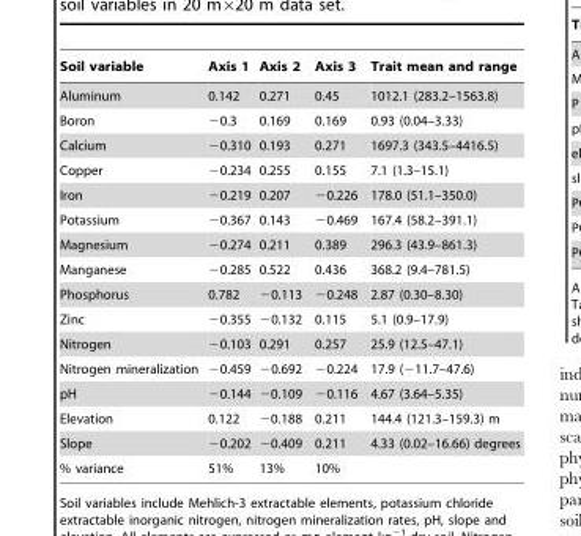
<table><thead><tr><td>Soil variable</td><td>Axis 1</td><td>Axis 2</td><td>Axis 3</td><td>Trait mean and range</td></tr></thead><tbody><tr><td>Aluminum</td><td>0.142</td><td>0.271</td><td>0.45</td><td>1012.1 (283.2–1563.8)</td></tr><tr><td>Boron</td><td>−0.3</td><td>0.169</td><td>0.169</td><td>0.93 (0.04–3.33)</td></tr><tr><td>Calcium</td><td>−0.310</td><td>0.193</td><td>0.271</td><td>1697.3 (343.5–4416.5)</td></tr><tr><td>Copper</td><td>−0.234</td><td>0.255</td><td>0.155</td><td>7.1 (1.3–15.1)</td></tr><tr><td>Iron</td><td>−0.219</td><td>0.207</td><td>−0.226</td><td>178.0 (51.1–350.0)</td></tr><tr><td>Potassium</td><td>−0.367</td><td>0.143</td><td>−0.469</td><td>167.4 (58.2–391.1)</td></tr><tr><td>Magnesium</td><td>−0.274</td><td>0.211</td><td>0.389</td><td>296.3 (43.9–861.3)</td></tr><tr><td>Manganese</td><td>−0.285</td><td>0.522</td><td>0.436</td><td>368.2 (9.4–781.5)</td></tr><tr><td>Phosphorus</td><td>0.782</td><td>−0.113</td><td>−0.248</td><td>2.87 (0.30–8.30)</td></tr><tr><td>Zinc</td><td>−0.355</td><td>−0.132</td><td>0.115</td><td>5.1 (0.9–17.9)</td></tr><tr><td>Nitrogen</td><td>−0.103</td><td>0.291</td><td>0.257</td><td>25.9 (12.5–47.1)</td></tr><tr><td>Nitrogen mineralization</td><td>−0.459</td><td>−0.692</td><td>−0.224</td><td>17.9 (−11.7–47.6)</td></tr><tr><td>pH</td><td>−0.144</td><td>−0.109</td><td>−0.116</td><td>4.67 (3.64–5.35)</td></tr><tr><td>Elevation</td><td>0.122</td><td>−0.188</td><td>0.211</td><td>144.4 (121.3–159.3) m</td></tr><tr><td>Slope</td><td>−0.202</td><td>−0.409</td><td>0.211</td><td>4.33 (0.02–16.66) degrees</td></tr><tr><td>% variance</td><td>51%</td><td>13%</td><td>10%</td><td></td></tr></tbody></table>